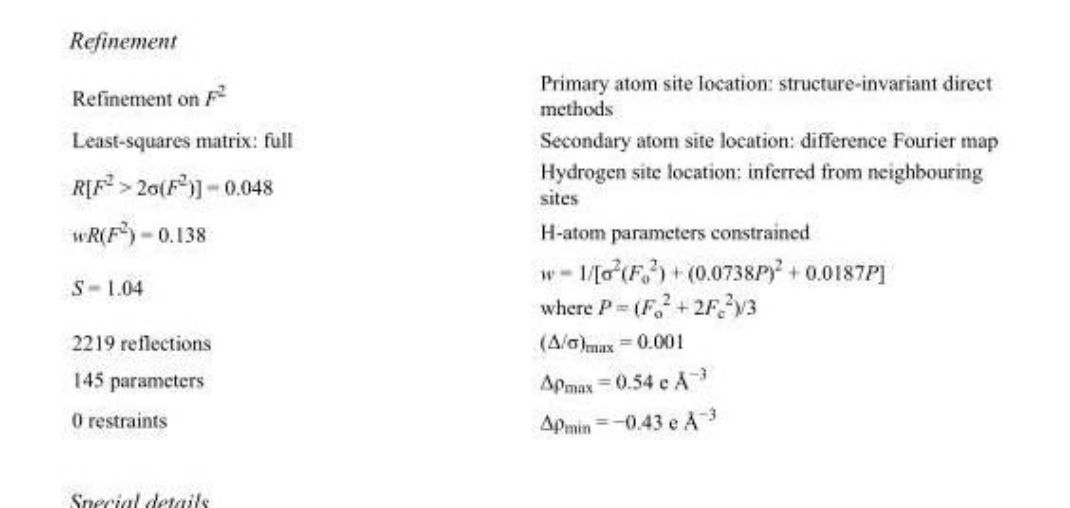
<table><tbody><tr><td>Refinement on F<sup>2</sup></td><td>Primary atom site location: structure-invariant direct methods</td></tr><tr><td>Least-squares matrix: full</td><td>Secondary atom site location: difference Fourier map</td></tr><tr><td>R[F<sup>2</sup> &gt; 2σ(F<sup>2</sup>)] = 0.048</td><td>Hydrogen site location: inferred from neighbouring sites</td></tr><tr><td>wR(F<sup>2</sup>) = 0.138</td><td>H-atom parameters constrained</td></tr><tr><td>S = 1.04</td><td>w = 1/[σ<sup>2</sup>(F<sub>o</sub> <sup>2</sup>) + (0.0738P)<sup>2</sup> + 0.0187P] where P = (F<sub>o</sub> <sup>2</sup> + 2F<sub>c</sub> <sup>2</sup>)/3</td></tr><tr><td>2219 reflections</td><td>(Δ/σ)<sub>max</sub> = 0.001</td></tr><tr><td>145 parameters</td><td>Δρ<sub>max</sub> = 0.54 e Å<sup>−3</sup></td></tr><tr><td>0 restraints</td><td>Δρ<sub>min</sub> = −0.43 e Å<sup>−3</sup></td></tr></tbody></table>